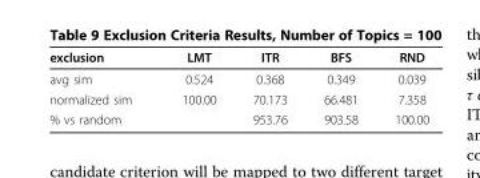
<table><thead><tr><td>exclusion</td><td>LMT</td><td>ITR</td><td>BFS</td><td>RND</td></tr></thead><tbody><tr><td>avg sim</td><td>0.524</td><td>0.368</td><td>0.349</td><td>0.039</td></tr><tr><td>normalized sim</td><td>100.00</td><td>70.173</td><td>66.481</td><td>7.358</td></tr><tr><td>% vs random</td><td></td><td>953.76</td><td>903.58</td><td>100.00</td></tr></tbody></table>